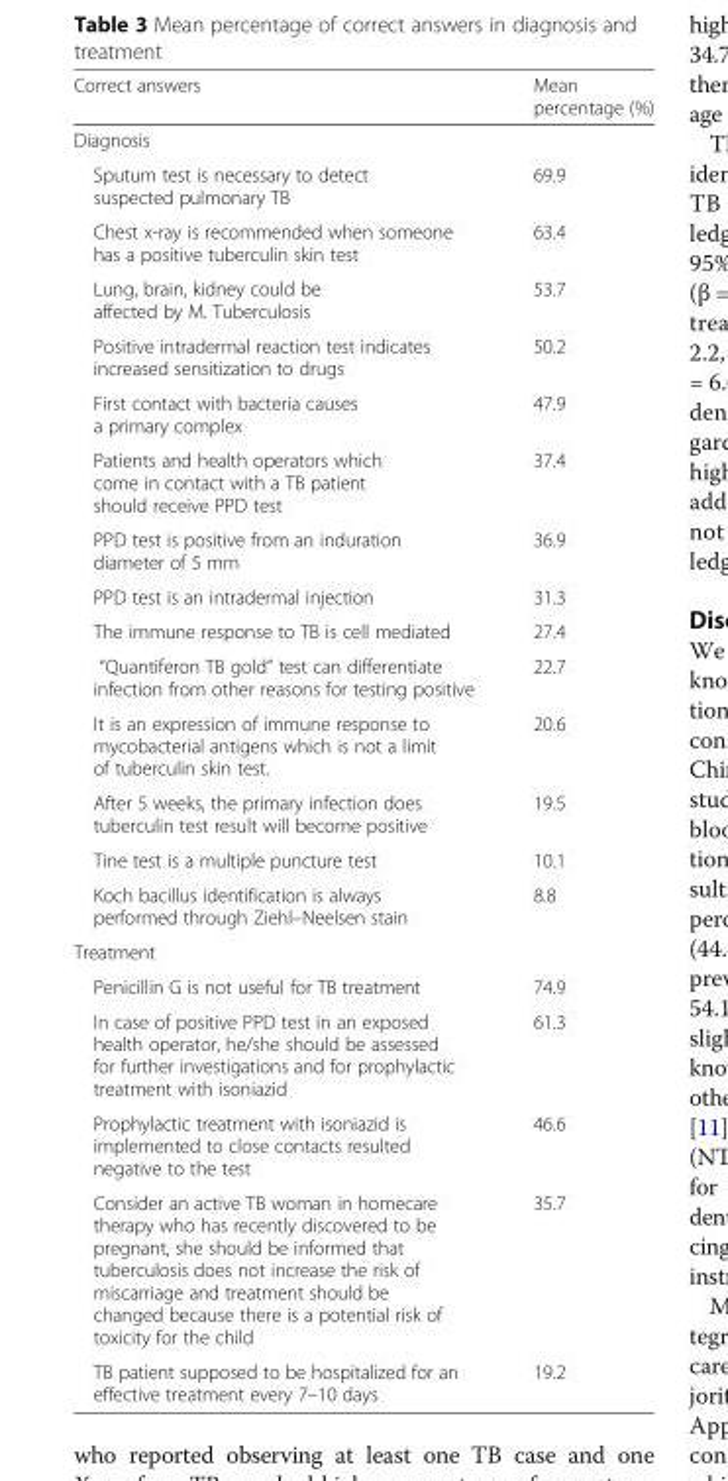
<table><thead><tr><td>Correct answers</td><td>Mean percentage (%)</td></tr></thead><tbody><tr><td colspan="2">Diagnosis</td></tr><tr><td>Sputum test is necessary to detect suspected pulmonary TB</td><td>69.9</td></tr><tr><td>Chest x-ray is recommended when someone has a positive tuberculin skin test</td><td>63.4</td></tr><tr><td>Lung, brain, kidney could be affected by M. Tuberculosis</td><td>53.7</td></tr><tr><td>Positive intradermal reaction test indicates increased sensitization to drugs</td><td>50.2</td></tr><tr><td>First contact with bacteria causes a primary complex</td><td>47.9</td></tr><tr><td>Patients and health operators which come in contact with a TB patient should receive PPD test</td><td>37.4</td></tr><tr><td>PPD test is positive from an induration diameter of 5 mm</td><td>36.9</td></tr><tr><td>PPD test is an intradermal injection</td><td>31.3</td></tr><tr><td>The immune response to TB is cell mediated</td><td>27.4</td></tr><tr><td>“Quantiferon TB gold” test can differentiate infection from other reasons for testing positive</td><td>22.7</td></tr><tr><td>It is an expression of immune response to mycobacterial antigens which is not a limit of tuberculin skin test.</td><td>20.6</td></tr><tr><td>After 5 weeks, the primary infection does tuberculin test result will become positive</td><td>19.5</td></tr><tr><td>Tine test is a multiple puncture test</td><td>10.1</td></tr><tr><td>Koch bacillus identification is always performed through Ziehl–Neelsen stain</td><td>8.8</td></tr><tr><td colspan="2">Treatment</td></tr><tr><td>Penicillin G is not useful for TB treatment</td><td>74.9</td></tr><tr><td>In case of positive PPD test in an exposed health operator, he/she should be assessed for further investigations and for prophylactic treatment with isoniazid</td><td>61.3</td></tr><tr><td>Prophylactic treatment with isoniazid is implemented to close contacts resulted negative to the test</td><td>46.6</td></tr><tr><td>Consider an active TB woman in homecare therapy who has recently discovered to be pregnant, she should be informed that tuberculosis does not increase the risk of miscarriage and treatment should be changed because there is a potential risk of toxicity for the child</td><td>35.7</td></tr><tr><td>TB patient supposed to be hospitalized for an effective treatment every 7–10 days</td><td>19.2</td></tr></tbody></table>